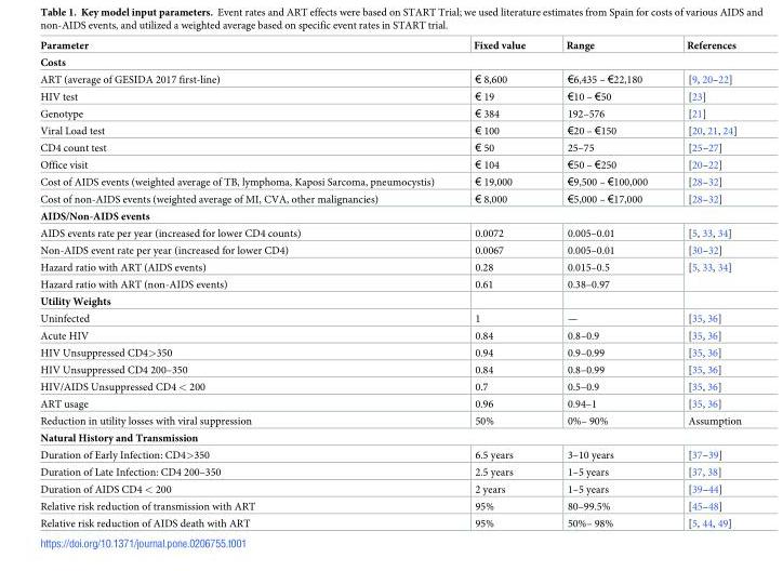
<table><thead><tr><td>Parameter</td><td>Fixed value</td><td>Range</td><td>References</td></tr></thead><tbody><tr><td colspan="4">Costs</td></tr><tr><td>ART (average of GESIDA 2017 first-line)</td><td>€ 8,600</td><td>€6,435 – €22,180</td><td>[9, 20–22]</td></tr><tr><td>HIV test</td><td>€ 19</td><td>€10 – €50</td><td>[23]</td></tr><tr><td>Genotype</td><td>€ 384</td><td>192–576</td><td>[21]</td></tr><tr><td>Viral Load test</td><td>€ 100</td><td>€20 – €150</td><td>[20, 21, 24]</td></tr><tr><td>CD4 count test</td><td>€ 50</td><td>25–75</td><td>[25–27]</td></tr><tr><td>Office visit</td><td>€ 104</td><td>€50 – €250</td><td>[20–22]</td></tr><tr><td>Cost of AIDS events (weighted average of TB, lymphoma, Kaposi Sarcoma, pneumocystis)</td><td>€ 19,000</td><td>€9,500 – €100,000</td><td>[28–32]</td></tr><tr><td>Cost of non-AIDS events (weighted average of MI, CVA, other malignancies)</td><td>€ 8,000</td><td>€5,000 – €17,000</td><td>[28–32]</td></tr><tr><td colspan="4">AIDS/Non-AIDS events</td></tr><tr><td>AIDS events rate per year (increased for lower CD4 counts)</td><td>0.0072</td><td>0.005–0.01</td><td>[5, 33, 34]</td></tr><tr><td>Non-AIDS event rate per year (increased for lower CD4)</td><td>0.0067</td><td>0.005–0.01</td><td>[30–32]</td></tr><tr><td>Hazard ratio with ART (AIDS events)</td><td>0.28</td><td>0.015–0.5</td><td rowspan="2">[5, 33, 34]</td></tr><tr><td>Hazard ratio with ART (non-AIDS events)</td><td>0.61</td><td>0.38–0.97</td></tr><tr><td colspan="4">Utility Weights</td></tr><tr><td>Uninfected</td><td>1</td><td>—</td><td>[35, 36]</td></tr><tr><td>Acute HIV</td><td>0.84</td><td>0.8–0.9</td><td>[35, 36]</td></tr><tr><td>HIV Unsuppressed CD4&gt;350</td><td>0.94</td><td>0.9–0.99</td><td>[35, 36]</td></tr><tr><td>HIV Unsuppressed CD4 200–350</td><td>0.84</td><td>0.8–0.99</td><td>[35, 36]</td></tr><tr><td>HIV/AIDS Unsuppressed CD4 &lt; 200</td><td>0.7</td><td>0.5–0.9</td><td>[35, 36]</td></tr><tr><td>ART usage</td><td>0.96</td><td>0.94–1</td><td>[35, 36]</td></tr><tr><td>Reduction in utility losses with viral suppression</td><td>50%</td><td>0%– 90%</td><td>Assumption</td></tr><tr><td colspan="4">Natural History and Transmission</td></tr><tr><td>Duration of Early Infection: CD4&gt;350</td><td>6.5 years</td><td>3–10 years</td><td>[37–39]</td></tr><tr><td>Duration of Late Infection: CD4 200–350</td><td>2.5 years</td><td>1–5 years</td><td>[37, 38]</td></tr><tr><td>Duration of AIDS CD4 &lt; 200</td><td>2 years</td><td>1–5 years</td><td>[39–44]</td></tr><tr><td>Relative risk reduction of transmission with ART</td><td>95%</td><td>80–99.5%</td><td>[45–48]</td></tr><tr><td>Relative risk reduction of AIDS death with ART</td><td>95%</td><td>50%– 98%</td><td>[5, 44, 49]</td></tr></tbody></table>